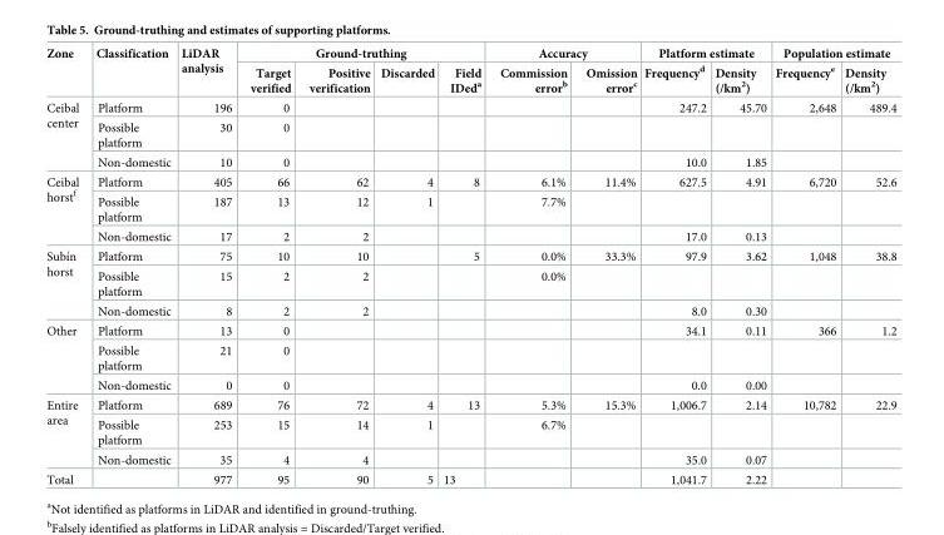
<table><thead><tr><td rowspan="2">Zone</td><td rowspan="2">Classification</td><td rowspan="2">LiDAR analysis</td><td colspan="4">Ground-truthing</td><td colspan="2">Accuracy</td><td colspan="2">Platform estimate</td><td colspan="2">Population estimate</td></tr><tr><td>Target verified</td><td>Positive verification</td><td>Discarded</td><td>Field IDed<sup>a</sup></td><td>Commission error<sup>b</sup></td><td>Omission error<sup>c</sup></td><td>Frequency<sup>d</sup></td><td>Density (/km<sup>2</sup>)</td><td>Frequency<sup>e</sup></td><td>Density (/km<sup>2</sup>)</td></tr></thead><tbody><tr><td rowspan="3">Ceibal center</td><td>Platform</td><td>196</td><td>0</td><td></td><td></td><td></td><td></td><td></td><td>247.2</td><td>45.70</td><td>2,648</td><td>489.4</td></tr><tr><td>Possible platform</td><td>30</td><td>0</td><td></td><td></td><td></td><td></td><td></td><td></td><td></td><td></td><td></td></tr><tr><td>Non-domestic</td><td>10</td><td>0</td><td></td><td></td><td></td><td></td><td></td><td>10.0</td><td>1.85</td><td></td><td></td></tr><tr><td rowspan="3">Ceibal horst<sup>f</sup></td><td>Platform</td><td>405</td><td>66</td><td>62</td><td>4</td><td>8</td><td>6.1%</td><td>11.4%</td><td>627.5</td><td>4.91</td><td>6,720</td><td>52.6</td></tr><tr><td>Possible platform</td><td>187</td><td>13</td><td>12</td><td>1</td><td></td><td>7.7%</td><td></td><td></td><td></td><td></td><td></td></tr><tr><td>Non-domestic</td><td>17</td><td>2</td><td>2</td><td></td><td></td><td></td><td></td><td>17.0</td><td>0.13</td><td></td><td></td></tr><tr><td rowspan="3">Subı´n horst</td><td>Platform</td><td>75</td><td>10</td><td>10</td><td></td><td>5</td><td>0.0%</td><td>33.3%</td><td>97.9</td><td>3.62</td><td>1,048</td><td>38.8</td></tr><tr><td>Possible platform</td><td>15</td><td>2</td><td>2</td><td></td><td></td><td>0.0%</td><td></td><td></td><td></td><td></td><td></td></tr><tr><td>Non-domestic</td><td>8</td><td>2</td><td>2</td><td></td><td></td><td></td><td></td><td>8.0</td><td>0.30</td><td></td><td></td></tr><tr><td rowspan="3">Other</td><td>Platform</td><td>13</td><td>0</td><td></td><td></td><td></td><td></td><td></td><td>34.1</td><td>0.11</td><td>366</td><td>1.2</td></tr><tr><td>Possible platform</td><td>21</td><td>0</td><td></td><td></td><td></td><td></td><td></td><td></td><td></td><td></td><td></td></tr><tr><td>Non-domestic</td><td>0</td><td>0</td><td></td><td></td><td></td><td></td><td></td><td>0.0</td><td>0.00</td><td></td><td></td></tr><tr><td rowspan="3">Entire area</td><td>Platform</td><td>689</td><td>76</td><td>72</td><td>4</td><td>13</td><td>5.3%</td><td>15.3%</td><td>1,006.7</td><td>2.14</td><td>10,782</td><td>22.9</td></tr><tr><td>Possible platform</td><td>253</td><td>15</td><td>14</td><td>1</td><td></td><td>6.7%</td><td></td><td></td><td></td><td></td><td></td></tr><tr><td>Non-domestic</td><td>35</td><td>4</td><td>4</td><td></td><td></td><td></td><td></td><td>35.0</td><td>0.07</td><td></td><td></td></tr><tr><td>Total</td><td></td><td>977</td><td>95</td><td>90</td><td>5</td><td>13</td><td></td><td></td><td>1,041.7</td><td>2.22</td><td></td><td></td></tr></tbody></table>